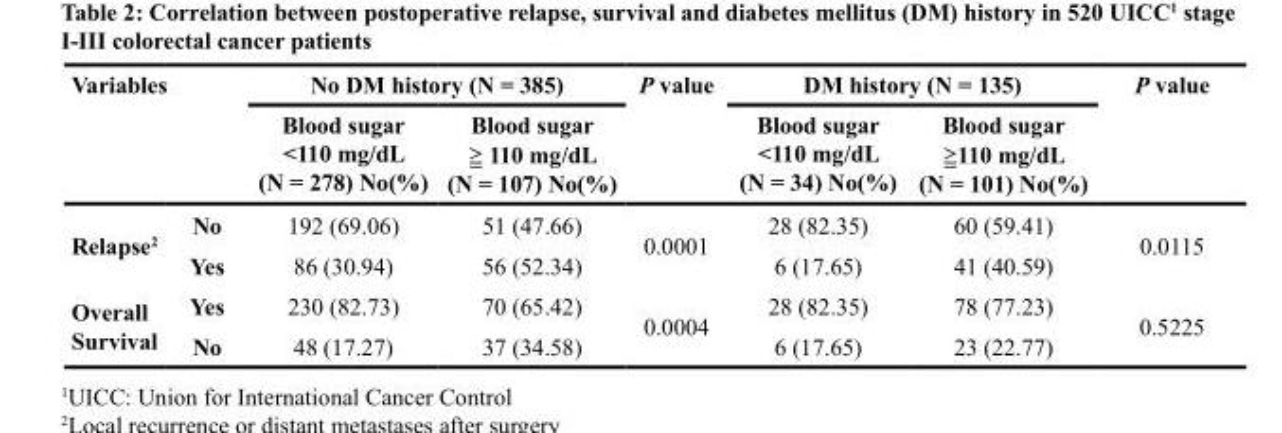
<table><thead><tr><td rowspan="2">Variables</td><td rowspan="2"></td><td colspan="2">No DM history (N = 385)</td><td rowspan="2">P value</td><td colspan="2">DM history (N = 135)</td><td rowspan="2">P value</td></tr><tr><td>Blood sugar &lt;110 mg/dL (N = 278) No(%)</td><td>Blood sugar ≧ 110 mg/dL (N = 107) No(%)</td><td>Blood sugar &lt;110 mg/dL (N = 34) No(%)</td><td>Blood sugar ≧110 mg/dL (N = 101) No(%)</td></tr></thead><tbody><tr><td rowspan="2">Relapse<sup>2</sup></td><td>No</td><td>192 (69.06)</td><td>51 (47.66)</td><td rowspan="2">0.0001</td><td>28 (82.35)</td><td>60 (59.41)</td><td rowspan="2">0.0115</td></tr><tr><td>Yes</td><td>86 (30.94)</td><td>56 (52.34)</td><td>6 (17.65)</td><td>41 (40.59)</td></tr><tr><td rowspan="2">Overall Survival</td><td>Yes</td><td>230 (82.73)</td><td>70 (65.42)</td><td rowspan="2">0.0004</td><td>28 (82.35)</td><td>78 (77.23)</td><td rowspan="2">0.5225</td></tr><tr><td>No</td><td>48 (17.27)</td><td>37 (34.58)</td><td>6 (17.65)</td><td>23 (22.77)</td></tr></tbody></table>